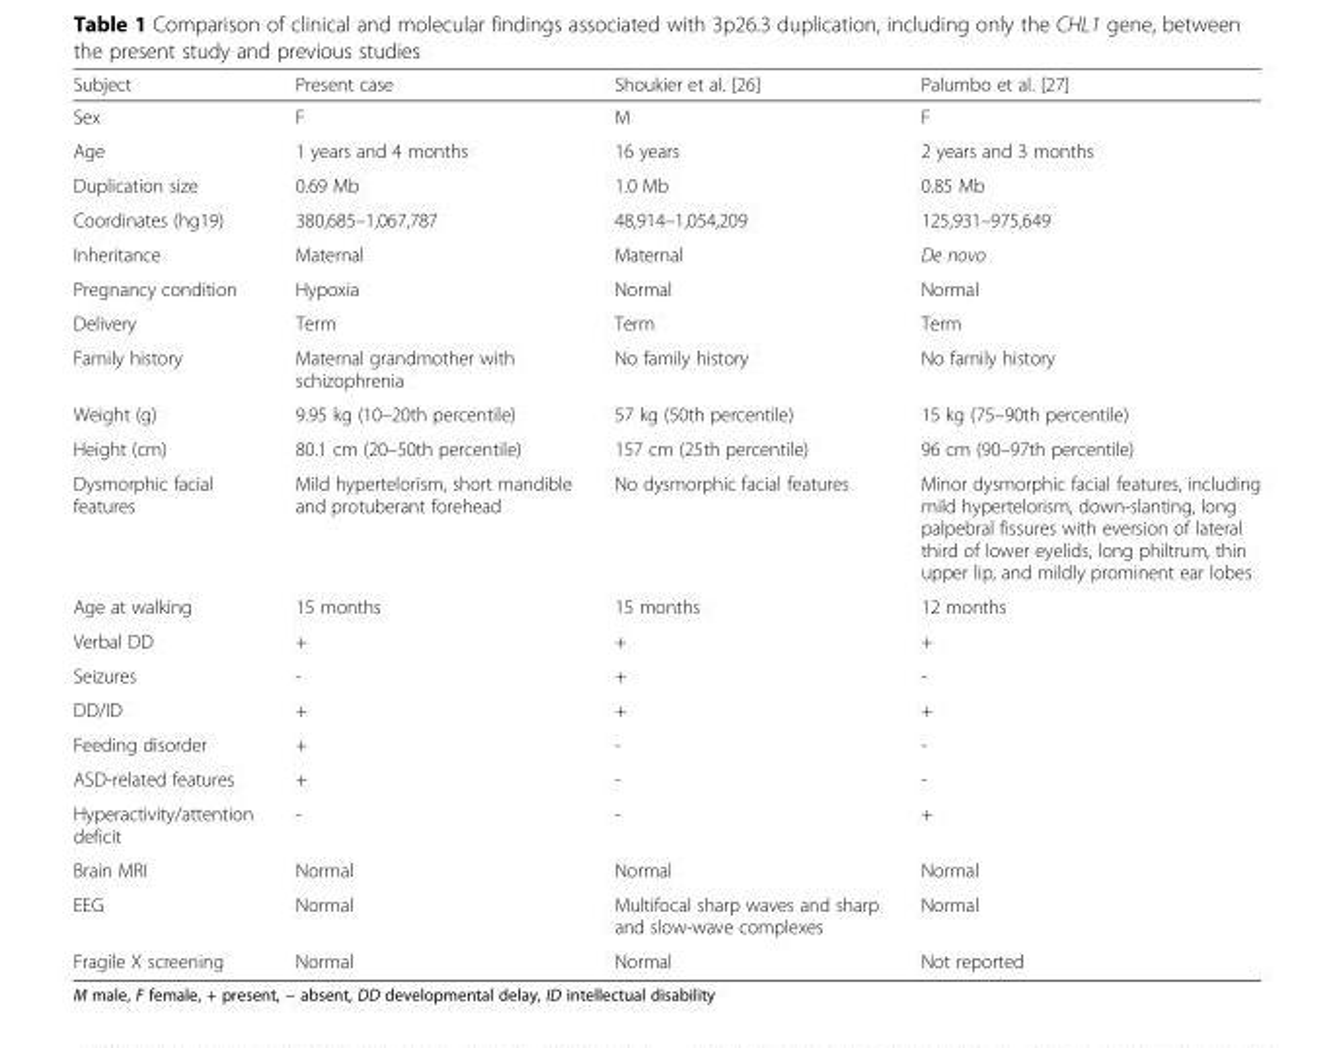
<table><thead><tr><td>Subject</td><td>Present case</td><td>Shoukier et al. [26]</td><td>Palumbo et al. [27]</td></tr></thead><tbody><tr><td>Sex</td><td>F</td><td>M</td><td>F</td></tr><tr><td>Age</td><td>1 years and 4 months</td><td>16 years</td><td>2 years and 3 months</td></tr><tr><td>Duplication size</td><td>0.69 Mb</td><td>1.0 Mb</td><td>0.85 Mb</td></tr><tr><td>Coordinates (hg19)</td><td>380,685–1,067,787</td><td>48,914–1,054,209</td><td>125,931–975,649</td></tr><tr><td>Inheritance</td><td>Maternal</td><td>Maternal</td><td>De novo</td></tr><tr><td>Pregnancy condition</td><td>Hypoxia</td><td>Normal</td><td>Normal</td></tr><tr><td>Delivery</td><td>Term</td><td>Term</td><td>Term</td></tr><tr><td>Family history</td><td>Maternal grandmother with schizophrenia</td><td>No family history</td><td>No family history</td></tr><tr><td>Weight (g)</td><td>9.95 kg (10–20th percentile)</td><td>57 kg (50th percentile)</td><td>15 kg (75–90th percentile)</td></tr><tr><td>Height (cm)</td><td>80.1 cm (20–50th percentile)</td><td>157 cm (25th percentile)</td><td>96 cm (90–97th percentile)</td></tr><tr><td>Dysmorphic facial features</td><td>Mild hypertelorism, short mandible and protuberant forehead</td><td>No dysmorphic facial features</td><td>Minor dysmorphic facial features, including mild hypertelorism, down-slanting, long palpebral fissures with eversion of lateral third of lower eyelids, long philtrum, thin upper lip, and mildly prominent ear lobes</td></tr><tr><td>Age at walking</td><td>15 months</td><td>15 months</td><td>12 months</td></tr><tr><td>Verbal DD</td><td>+</td><td>+</td><td>+</td></tr><tr><td>Seizures</td><td>-</td><td>+</td><td>-</td></tr><tr><td>DD/ID</td><td>+</td><td>+</td><td>+</td></tr><tr><td>Feeding disorder</td><td>+</td><td>-</td><td>-</td></tr><tr><td>ASD-related features</td><td>+</td><td>-</td><td>-</td></tr><tr><td>Hyperactivity/attention deficit</td><td>-</td><td>-</td><td>+</td></tr><tr><td>Brain MRI</td><td>Normal</td><td>Normal</td><td>Normal</td></tr><tr><td>EEG</td><td>Normal</td><td>Multifocal sharp waves and sharp and slow-wave complexes</td><td>Normal</td></tr><tr><td>Fragile X screening</td><td>Normal</td><td>Normal</td><td>Not reported</td></tr></tbody></table>